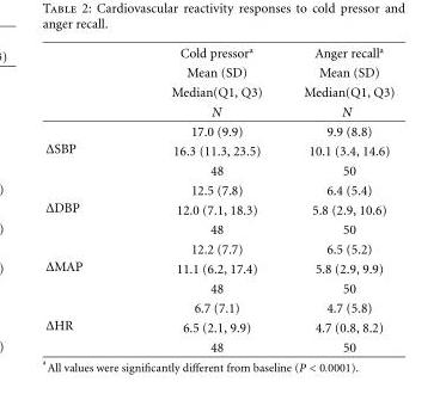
<table><thead><tr><td rowspan="4"></td><td rowspan="4">Cold pressor<sup>a</sup> Mean (SD) Median(Q1, Q3) N</td><td rowspan="4">Anger recall<sup>a</sup> Mean (SD) Median(Q1, Q3) N</td></tr><tr></tr><tr></tr><tr></tr></thead><tbody><tr><td rowspan="3">ΔSBP</td><td>17.0 (9.9)</td><td>9.9 (8.8)</td></tr><tr><td>16.3 (11.3, 23.5)</td><td>10.1 (3.4, 14.6)</td></tr><tr><td>48</td><td>50</td></tr><tr><td rowspan="3">ΔDBP</td><td>12.5 (7.8)</td><td>6.4 (5.4)</td></tr><tr><td>12.0 (7.1, 18.3)</td><td>5.8 (2.9, 10.6)</td></tr><tr><td>48</td><td>50</td></tr><tr><td rowspan="3">ΔMAP</td><td>12.2 (7.7)</td><td>6.5 (5.2)</td></tr><tr><td>11.1 (6.2, 17.4)</td><td>5.8 (2.9, 9.9)</td></tr><tr><td>48</td><td>50</td></tr><tr><td rowspan="3">ΔHR</td><td>6.7 (7.1)</td><td>4.7 (5.8)</td></tr><tr><td>6.5 (2.1, 9.9)</td><td>4.7 (0.8, 8.2)</td></tr><tr><td>48</td><td>50</td></tr></tbody></table>